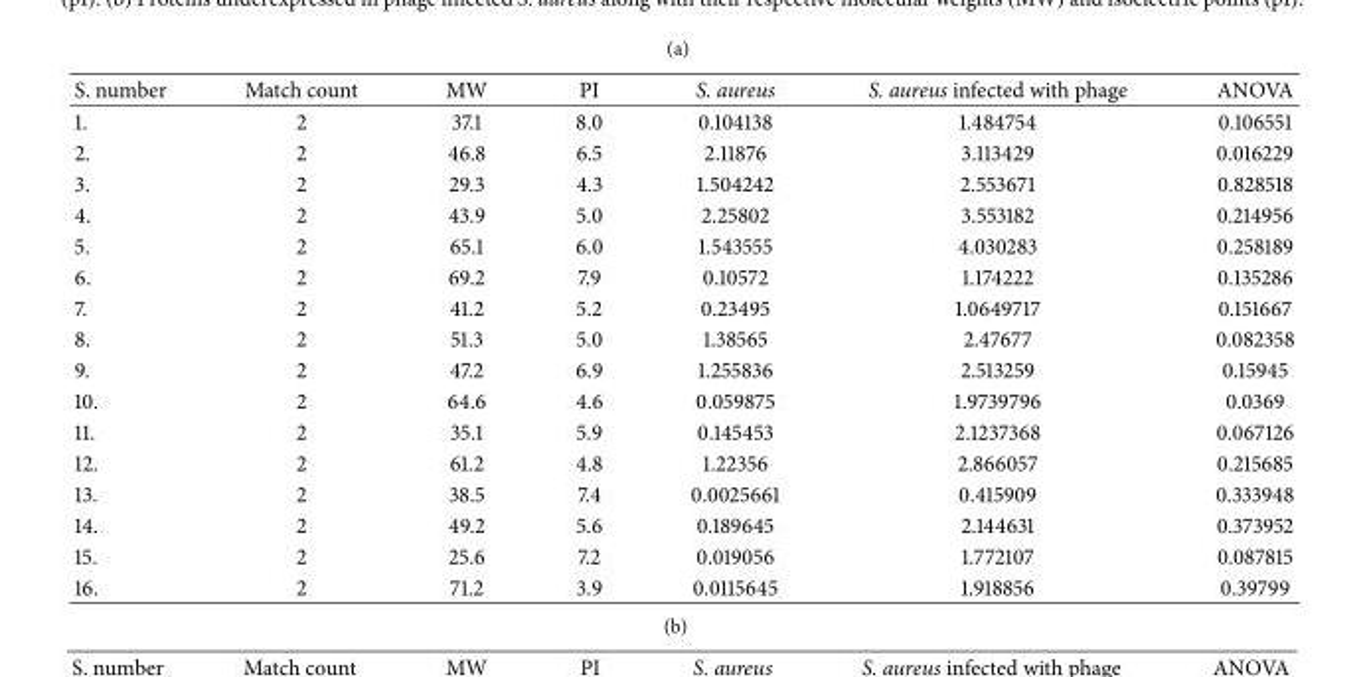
<table><thead><tr><td>S. number</td><td>Match count</td><td>MW</td><td>PI</td><td>S. aureus</td><td>S. aureus infected with phage</td><td>ANOVA</td></tr></thead><tbody><tr><td>1.</td><td>2</td><td>37.1</td><td>8.0</td><td>0.104138</td><td>1.484754</td><td>0.106551</td></tr><tr><td>2.</td><td>2</td><td>46.8</td><td>6.5</td><td>2.11876</td><td>3.113429</td><td>0.016229</td></tr><tr><td>3.</td><td>2</td><td>29.3</td><td>4.3</td><td>1.504242</td><td>2.553671</td><td>0.828518</td></tr><tr><td>4.</td><td>2</td><td>43.9</td><td>5.0</td><td>2.25802</td><td>3.553182</td><td>0.214956</td></tr><tr><td>5.</td><td>2</td><td>65.1</td><td>6.0</td><td>1.543555</td><td>4.030283</td><td>0.258189</td></tr><tr><td>6.</td><td>2</td><td>69.2</td><td>7.9</td><td>0.10572</td><td>1.174222</td><td>0.135286</td></tr><tr><td>7.</td><td>2</td><td>41.2</td><td>5.2</td><td>0.23495</td><td>1.0649717</td><td>0.151667</td></tr><tr><td>8.</td><td>2</td><td>51.3</td><td>5.0</td><td>1.38565</td><td>2.47677</td><td>0.082358</td></tr><tr><td>9.</td><td>2</td><td>47.2</td><td>6.9</td><td>1.255836</td><td>2.513259</td><td>0.15945</td></tr><tr><td>10.</td><td>2</td><td>64.6</td><td>4.6</td><td>0.059875</td><td>1.9739796</td><td>0.0369</td></tr><tr><td>11.</td><td>2</td><td>35.1</td><td>5.9</td><td>0.145453</td><td>2.1237368</td><td>0.067126</td></tr><tr><td>12.</td><td>2</td><td>61.2</td><td>4.8</td><td>1.22356</td><td>2.866057</td><td>0.215685</td></tr><tr><td>13.</td><td>2</td><td>38.5</td><td>7.4</td><td>0.0025661</td><td>0.415909</td><td>0.333948</td></tr><tr><td>14.</td><td>2</td><td>49.2</td><td>5.6</td><td>0.189645</td><td>2.144631</td><td>0.373952</td></tr><tr><td>15.</td><td>2</td><td>25.6</td><td>7.2</td><td>0.019056</td><td>1.772107</td><td>0.087815</td></tr><tr><td>16.</td><td>2</td><td>71.2</td><td>3.9</td><td>0.0115645</td><td>1.918856</td><td>0.39799</td></tr></tbody></table>